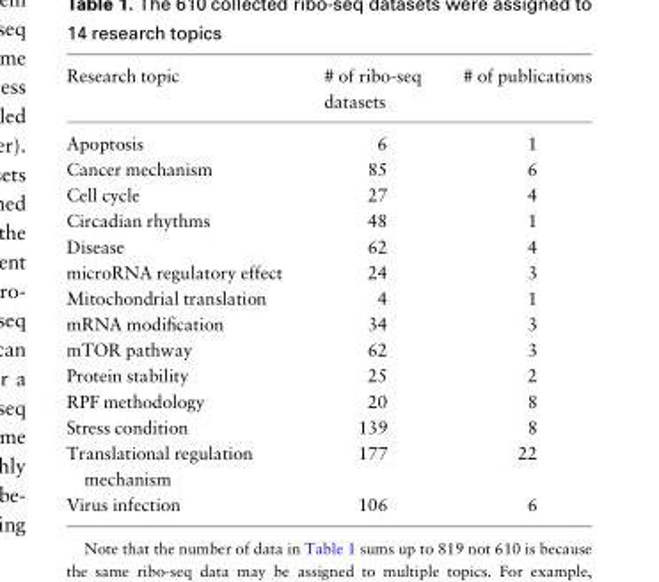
<table><thead><tr><td>Research topic</td><td># of ribo-seq datasets</td><td># of publications</td></tr></thead><tbody><tr><td>Apoptosis</td><td>6</td><td>1</td></tr><tr><td>Cancer mechanism</td><td>85</td><td>6</td></tr><tr><td>Cell cycle</td><td>27</td><td>4</td></tr><tr><td>Circadian rhythms</td><td>48</td><td>1</td></tr><tr><td>Disease</td><td>62</td><td>4</td></tr><tr><td>microRNA regulatory effect</td><td>24</td><td>3</td></tr><tr><td>Mitochondrial translation</td><td>4</td><td>1</td></tr><tr><td>mRNA modification</td><td>34</td><td>3</td></tr><tr><td>mTOR pathway</td><td>62</td><td>3</td></tr><tr><td>Protein stability</td><td>25</td><td>2</td></tr><tr><td>RPF methodology</td><td>20</td><td>8</td></tr><tr><td>Stress condition</td><td>139</td><td>8</td></tr><tr><td>Translational regulation mechanism</td><td>177</td><td>22</td></tr><tr><td>Virus infection</td><td>106</td><td>6</td></tr></tbody></table>